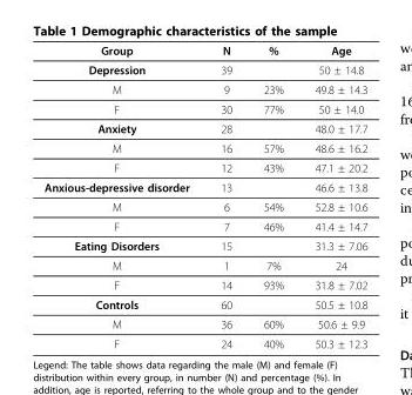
<table><thead><tr><td>Group</td><td>N</td><td>%</td><td>Age</td></tr></thead><tbody><tr><td>Depression</td><td>39</td><td></td><td>50 ± 14.8</td></tr><tr><td>M</td><td>9</td><td>23%</td><td>49.8 ± 14.3</td></tr><tr><td>F</td><td>30</td><td>77%</td><td>50 ± 14.0</td></tr><tr><td>Anxiety</td><td>28</td><td></td><td>48.0 ± 17.7</td></tr><tr><td>M</td><td>16</td><td>57%</td><td>48.6 ± 16.2</td></tr><tr><td>F</td><td>12</td><td>43%</td><td>47.1 ± 20.2</td></tr><tr><td>Anxious-depressive disorder</td><td>13</td><td></td><td>46.6 ± 13.8</td></tr><tr><td>M</td><td>6</td><td>54%</td><td>52.8 ± 10.6</td></tr><tr><td>F</td><td>7</td><td>46%</td><td>41.4 ± 14.7</td></tr><tr><td>Eating Disorders</td><td>15</td><td></td><td>31.3 ± 7.06</td></tr><tr><td>M</td><td>1</td><td>7%</td><td>24</td></tr><tr><td>F</td><td>14</td><td>93%</td><td>31.8 ± 7.02</td></tr><tr><td>Controls</td><td>60</td><td></td><td>50.5 ± 10.8</td></tr><tr><td>M</td><td>36</td><td>60%</td><td>50.6 ± 9.9</td></tr><tr><td>F</td><td>24</td><td>40%</td><td>50.3 ± 12.3</td></tr></tbody></table>